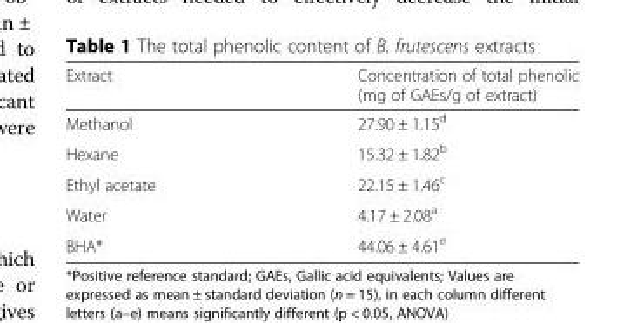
<table><thead><tr><td>Extract</td><td>Concentration of total phenolic (mg of GAEs/g of extract)</td></tr></thead><tbody><tr><td>Methanol</td><td>27.90 ± 1.15<sup>d</sup></td></tr><tr><td>Hexane</td><td>15.32 ± 1.82<sup>b</sup></td></tr><tr><td>Ethyl acetate</td><td>22.15 ± 1.46<sup>c</sup></td></tr><tr><td>Water</td><td>4.17 ± 2.08<sup>a</sup></td></tr><tr><td>BHA*</td><td>44.06 ± 4.61<sup>e</sup></td></tr></tbody></table>